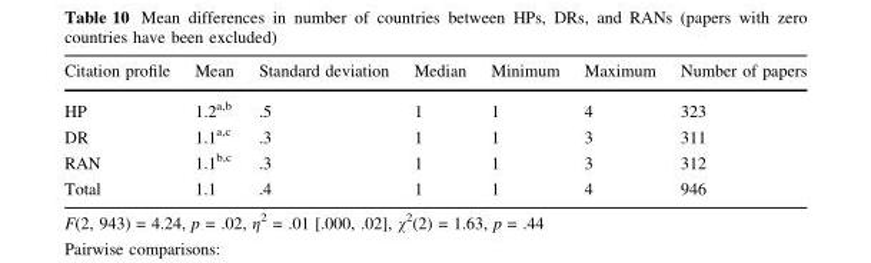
<table><thead><tr><td>Citation profile</td><td>Mean</td><td>Standard deviation</td><td>Median</td><td>Minimum</td><td>Maximum</td><td>Number of papers</td></tr></thead><tbody><tr><td>HP</td><td>1.2<sup>a,b</sup></td><td>.5</td><td>1</td><td>1</td><td>4</td><td>323</td></tr><tr><td>DR</td><td>1.1<sup>a,c</sup></td><td>.3</td><td>1</td><td>1</td><td>3</td><td>311</td></tr><tr><td>RAN</td><td>1.1<sup>b,c</sup></td><td>.3</td><td>1</td><td>1</td><td>3</td><td>312</td></tr><tr><td>Total</td><td>1.1</td><td>.4</td><td>1</td><td>1</td><td>4</td><td>946</td></tr></tbody></table>